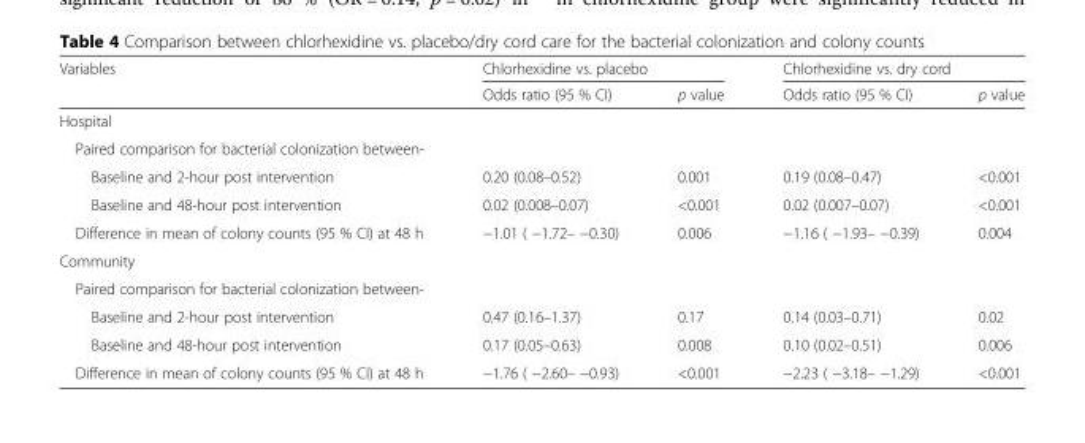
<table><thead><tr><td rowspan="2">Variables</td><td colspan="2">Chlorhexidine vs. placebo</td><td colspan="2">Chlorhexidine vs. dry cord</td></tr><tr><td>Odds ratio (95 % CI)</td><td>p value</td><td>Odds ratio (95 % CI)</td><td>p value</td></tr></thead><tbody><tr><td colspan="5">Hospital</td></tr><tr><td colspan="5">Paired comparison for bacterial colonization between-</td></tr><tr><td>Baseline and 2-hour post intervention</td><td>0.20 (0.08–0.52)</td><td>0.001</td><td>0.19 (0.08–0.47)</td><td>&lt;0.001</td></tr><tr><td>Baseline and 48-hour post intervention</td><td>0.02 (0.008–0.07)</td><td>&lt;0.001</td><td>0.02 (0.007–0.07)</td><td>&lt;0.001</td></tr><tr><td>Difference in mean of colony counts (95 % CI) at 48 h</td><td>−1.01 ( −1.72– −0.30)</td><td>0.006</td><td>−1.16 ( −1.93– −0.39)</td><td>0.004</td></tr><tr><td colspan="5">Community</td></tr><tr><td colspan="5">Paired comparison for bacterial colonization between-</td></tr><tr><td>Baseline and 2-hour post intervention</td><td>0.47 (0.16–1.37)</td><td>0.17</td><td>0.14 (0.03–0.71)</td><td>0.02</td></tr><tr><td>Baseline and 48-hour post intervention</td><td>0.17 (0.05–0.63)</td><td>0.008</td><td>0.10 (0.02–0.51)</td><td>0.006</td></tr><tr><td>Difference in mean of colony counts (95 % CI) at 48 h</td><td>−1.76 ( −2.60– −0.93)</td><td>&lt;0.001</td><td>−2.23 ( −3.18– −1.29)</td><td>&lt;0.001</td></tr></tbody></table>